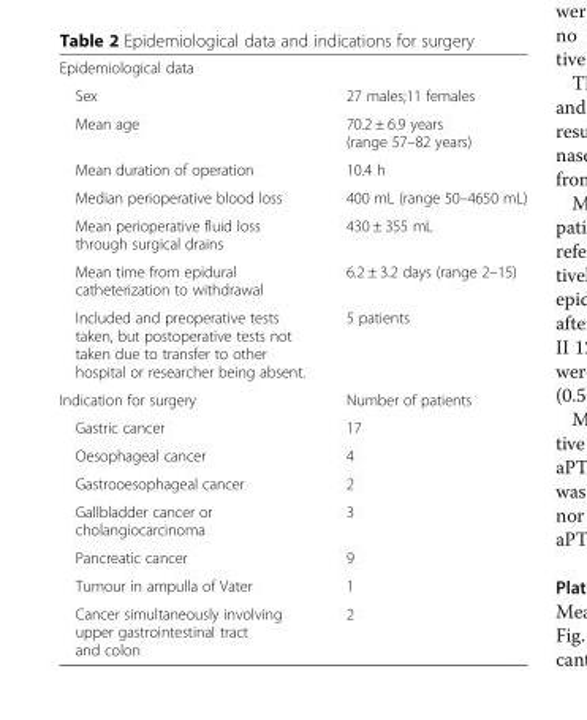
<table><tbody><tr><td colspan="2">Epidemiological data</td></tr><tr><td>Sex</td><td>27 males;11 females</td></tr><tr><td>Mean age</td><td>70.2 ± 6.9 years (range 57–82 years)</td></tr><tr><td>Mean duration of operation</td><td>10.4 h</td></tr><tr><td>Median perioperative blood loss</td><td>400 mL (range 50–4650 mL)</td></tr><tr><td>Mean perioperative fluid loss through surgical drains</td><td>430 ± 355 mL</td></tr><tr><td>Mean time from epidural catheterization to withdrawal</td><td>6.2 ± 3.2 days (range 2–15)</td></tr><tr><td>Included and preoperative tests taken, but postoperative tests not taken due to transfer to other hospital or researcher being absent.</td><td>5 patients</td></tr><tr><td>Indication for surgery</td><td>Number of patients</td></tr><tr><td>Gastric cancer</td><td>17</td></tr><tr><td>Oesophageal cancer</td><td>4</td></tr><tr><td>Gastrooesophageal cancer</td><td>2</td></tr><tr><td>Gallbladder cancer or cholangiocarcinoma</td><td>3</td></tr><tr><td>Pancreatic cancer</td><td>9</td></tr><tr><td>Tumour in ampulla of Vater</td><td>1</td></tr><tr><td>Cancer simultaneously involving upper gastrointestinal tract and colon</td><td>2</td></tr></tbody></table>